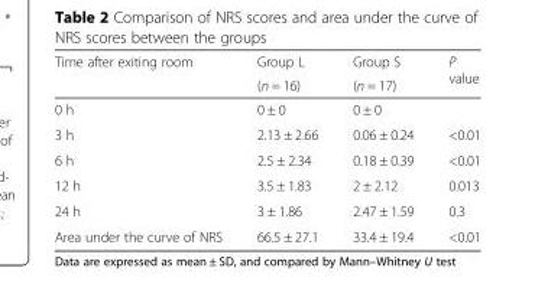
<table><thead><tr><td rowspan="2">Time after exiting room</td><td rowspan="2">Group L (n = 16)</td><td rowspan="2">Group S (n = 17)</td><td rowspan="2">P value</td></tr><tr></tr></thead><tbody><tr><td>0 h</td><td>0 ± 0</td><td>0 ± 0</td><td></td></tr><tr><td>3 h</td><td>2.13 ± 2.66</td><td>0.06 ± 0.24</td><td>&lt;0.01</td></tr><tr><td>6 h</td><td>2.5 ± 2.34</td><td>0.18 ± 0.39</td><td>&lt;0.01</td></tr><tr><td>12 h</td><td>3.5 ± 1.83</td><td>2 ± 2.12</td><td>0.013</td></tr><tr><td>24 h</td><td>3 ± 1.86</td><td>2.47 ± 1.59</td><td>0.3</td></tr><tr><td>Area under the curve of NRS</td><td>66.5 ± 27.1</td><td>33.4 ± 19.4</td><td>&lt;0.01</td></tr></tbody></table>